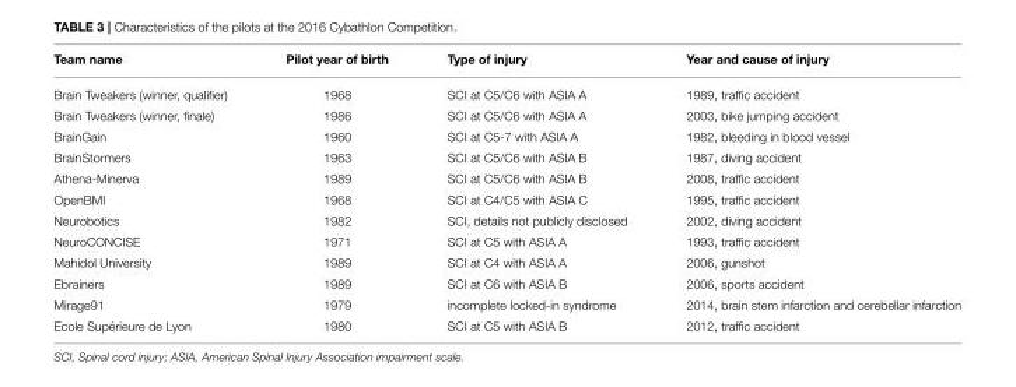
<table><thead><tr><td>Team name</td><td>Pilot year of birth</td><td>Type of injury</td><td>Year and cause of injury</td></tr></thead><tbody><tr><td>Brain Tweakers (winner, qualifier)</td><td>1968</td><td>SCI at C5/C6 with ASIA A</td><td>1989, traffic accident</td></tr><tr><td>Brain Tweakers (winner, finale)</td><td>1986</td><td>SCI at C5/C6 with ASIA A</td><td>2003, bike jumping accident</td></tr><tr><td>BrainGain</td><td>1960</td><td>SCI at C5-7 with ASIA A</td><td>1982, bleeding in blood vessel</td></tr><tr><td>BrainStormers</td><td>1963</td><td>SCI at C5/C6 with ASIA B</td><td>1987, diving accident</td></tr><tr><td>Athena-Minerva</td><td>1989</td><td>SCI at C5/C6 with ASIA B</td><td>2008, traffic accident</td></tr><tr><td>OpenBMI</td><td>1968</td><td>SCI at C4/C5 with ASIA C</td><td>1995, traffic accident</td></tr><tr><td>Neurobotics</td><td>1982</td><td>SCI, details not publicly disclosed</td><td>2002, diving accident</td></tr><tr><td>NeuroCONCISE</td><td>1971</td><td>SCI at C5 with ASIA A</td><td>1993, traffic accident</td></tr><tr><td>Mahidol University</td><td>1989</td><td>SCI at C4 with ASIA A</td><td>2006, gunshot</td></tr><tr><td>Ebrainers</td><td>1989</td><td>SCI at C6 with ASIA B</td><td>2006, sports accident</td></tr><tr><td>Mirage91</td><td>1979</td><td>incomplete locked-in syndrome</td><td>2014, brain stem infarction and cerebellar infarction</td></tr><tr><td>Ecole Supérieure de Lyon</td><td>1980</td><td>SCI at C5 with ASIA B</td><td>2012, traffic accident</td></tr></tbody></table>